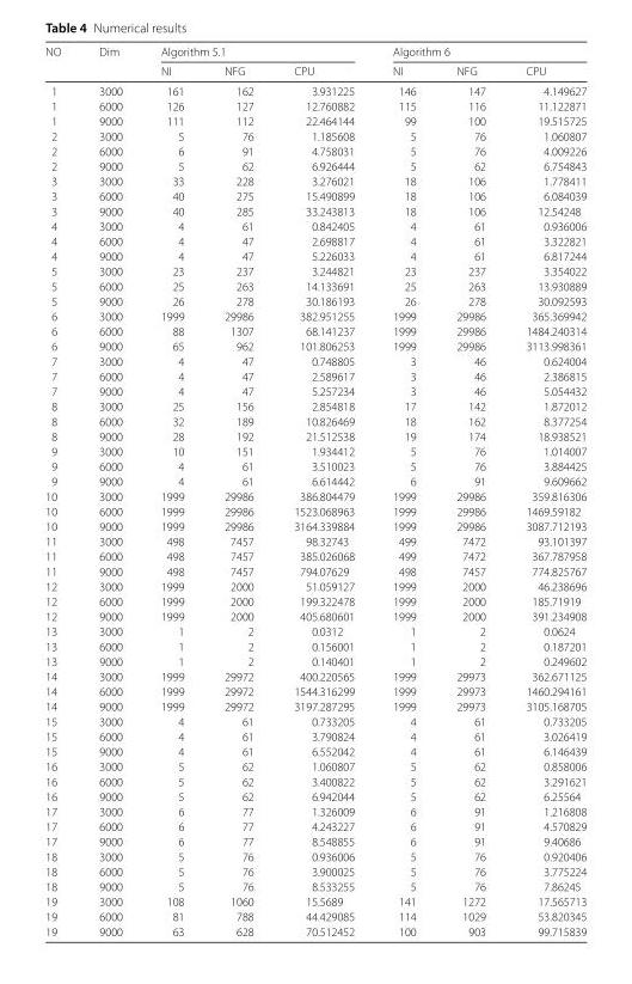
<table><thead><tr><td rowspan="2">NO</td><td rowspan="2">Dim</td><td colspan="3">Algorithm 5.1</td><td colspan="3">Algorithm 6</td></tr><tr><td>NI</td><td>NFG</td><td>CPU</td><td>NI</td><td>NFG</td><td>CPU</td></tr></thead><tbody><tr><td>1</td><td>3000</td><td>161</td><td>162</td><td>3.931225</td><td>146</td><td>147</td><td>4.149627</td></tr><tr><td>1</td><td>6000</td><td>126</td><td>127</td><td>12.760882</td><td>115</td><td>116</td><td>11.122871</td></tr><tr><td>1</td><td>9000</td><td>111</td><td>112</td><td>22.464144</td><td>99</td><td>100</td><td>19.515725</td></tr><tr><td>2</td><td>3000</td><td>5</td><td>76</td><td>1.185608</td><td>5</td><td>76</td><td>1.060807</td></tr><tr><td>2</td><td>6000</td><td>6</td><td>91</td><td>4.758031</td><td>5</td><td>76</td><td>4.009226</td></tr><tr><td>2</td><td>9000</td><td>5</td><td>62</td><td>6.926444</td><td>5</td><td>62</td><td>6.754843</td></tr><tr><td>3</td><td>3000</td><td>33</td><td>228</td><td>3.276021</td><td>18</td><td>106</td><td>1.778411</td></tr><tr><td>3</td><td>6000</td><td>40</td><td>275</td><td>15.490899</td><td>18</td><td>106</td><td>6.084039</td></tr><tr><td>3</td><td>9000</td><td>40</td><td>285</td><td>33.243813</td><td>18</td><td>106</td><td>12.54248</td></tr><tr><td>4</td><td>3000</td><td>4</td><td>61</td><td>0.842405</td><td>4</td><td>61</td><td>0.936006</td></tr><tr><td>4</td><td>6000</td><td>4</td><td>47</td><td>2.698817</td><td>4</td><td>61</td><td>3.322821</td></tr><tr><td>4</td><td>9000</td><td>4</td><td>47</td><td>5.226033</td><td>4</td><td>61</td><td>6.817244</td></tr><tr><td>5</td><td>3000</td><td>23</td><td>237</td><td>3.244821</td><td>23</td><td>237</td><td>3.354022</td></tr><tr><td>5</td><td>6000</td><td>25</td><td>263</td><td>14.133691</td><td>25</td><td>263</td><td>13.930889</td></tr><tr><td>5</td><td>9000</td><td>26</td><td>278</td><td>30.186193</td><td>26</td><td>278</td><td>30.092593</td></tr><tr><td>6</td><td>3000</td><td>1999</td><td>29986</td><td>382.951255</td><td>1999</td><td>29986</td><td>365.369942</td></tr><tr><td>6</td><td>6000</td><td>88</td><td>1307</td><td>68.141237</td><td>1999</td><td>29986</td><td>1484.240314</td></tr><tr><td>6</td><td>9000</td><td>65</td><td>962</td><td>101.806253</td><td>1999</td><td>29986</td><td>3113.998361</td></tr><tr><td>7</td><td>3000</td><td>4</td><td>47</td><td>0.748805</td><td>3</td><td>46</td><td>0.624004</td></tr><tr><td>7</td><td>6000</td><td>4</td><td>47</td><td>2.589617</td><td>3</td><td>46</td><td>2.386815</td></tr><tr><td>7</td><td>9000</td><td>4</td><td>47</td><td>5.257234</td><td>3</td><td>46</td><td>5.054432</td></tr><tr><td>8</td><td>3000</td><td>25</td><td>156</td><td>2.854818</td><td>17</td><td>142</td><td>1.872012</td></tr><tr><td>8</td><td>6000</td><td>32</td><td>189</td><td>10.826469</td><td>18</td><td>162</td><td>8.377254</td></tr><tr><td>8</td><td>9000</td><td>28</td><td>192</td><td>21.512538</td><td>19</td><td>174</td><td>18.938521</td></tr><tr><td>9</td><td>3000</td><td>10</td><td>151</td><td>1.934412</td><td>5</td><td>76</td><td>1.014007</td></tr><tr><td>9</td><td>6000</td><td>4</td><td>61</td><td>3.510023</td><td>5</td><td>76</td><td>3.884425</td></tr><tr><td>9</td><td>9000</td><td>4</td><td>61</td><td>6.614442</td><td>6</td><td>91</td><td>9.609662</td></tr><tr><td>10</td><td>3000</td><td>1999</td><td>29986</td><td>386.804479</td><td>1999</td><td>29986</td><td>359.816306</td></tr><tr><td>10</td><td>6000</td><td>1999</td><td>29986</td><td>1523.068963</td><td>1999</td><td>29986</td><td>1469.59182</td></tr><tr><td>10</td><td>9000</td><td>1999</td><td>29986</td><td>3164.339884</td><td>1999</td><td>29986</td><td>3087.712193</td></tr><tr><td>11</td><td>3000</td><td>498</td><td>7457</td><td>98.32743</td><td>499</td><td>7472</td><td>93.101397</td></tr><tr><td>11</td><td>6000</td><td>498</td><td>7457</td><td>385.026068</td><td>499</td><td>7472</td><td>367.787958</td></tr><tr><td>11</td><td>9000</td><td>498</td><td>7457</td><td>794.07629</td><td>498</td><td>7457</td><td>774.825767</td></tr><tr><td>12</td><td>3000</td><td>1999</td><td>2000</td><td>51.059127</td><td>1999</td><td>2000</td><td>46.238696</td></tr><tr><td>12</td><td>6000</td><td>1999</td><td>2000</td><td>199.322478</td><td>1999</td><td>2000</td><td>185.71919</td></tr><tr><td>12</td><td>9000</td><td>1999</td><td>2000</td><td>405.680601</td><td>1999</td><td>2000</td><td>391.234908</td></tr><tr><td>13</td><td>3000</td><td>1</td><td>2</td><td>0.0312</td><td>1</td><td>2</td><td>0.0624</td></tr><tr><td>13</td><td>6000</td><td>1</td><td>2</td><td>0.156001</td><td>1</td><td>2</td><td>0.187201</td></tr><tr><td>13</td><td>9000</td><td>1</td><td>2</td><td>0.140401</td><td>1</td><td>2</td><td>0.249602</td></tr><tr><td>14</td><td>3000</td><td>1999</td><td>29972</td><td>400.220565</td><td>1999</td><td>29973</td><td>362.671125</td></tr><tr><td>14</td><td>6000</td><td>1999</td><td>29972</td><td>1544.316299</td><td>1999</td><td>29973</td><td>1460.294161</td></tr><tr><td>14</td><td>9000</td><td>1999</td><td>29972</td><td>3197.287295</td><td>1999</td><td>29973</td><td>3105.168705</td></tr><tr><td>15</td><td>3000</td><td>4</td><td>61</td><td>0.733205</td><td>4</td><td>61</td><td>0.733205</td></tr><tr><td>15</td><td>6000</td><td>4</td><td>61</td><td>3.790824</td><td>4</td><td>61</td><td>3.026419</td></tr><tr><td>15</td><td>9000</td><td>4</td><td>61</td><td>6.552042</td><td>4</td><td>61</td><td>6.146439</td></tr><tr><td>16</td><td>3000</td><td>5</td><td>62</td><td>1.060807</td><td>5</td><td>62</td><td>0.858006</td></tr><tr><td>16</td><td>6000</td><td>5</td><td>62</td><td>3.400822</td><td>5</td><td>62</td><td>3.291621</td></tr><tr><td>16</td><td>9000</td><td>5</td><td>62</td><td>6.942044</td><td>5</td><td>62</td><td>6.25564</td></tr><tr><td>17</td><td>3000</td><td>6</td><td>77</td><td>1.326009</td><td>6</td><td>91</td><td>1.216808</td></tr><tr><td>17</td><td>6000</td><td>6</td><td>77</td><td>4.243227</td><td>6</td><td>91</td><td>4.570829</td></tr><tr><td>17</td><td>9000</td><td>6</td><td>77</td><td>8.548855</td><td>6</td><td>91</td><td>9.40686</td></tr><tr><td>18</td><td>3000</td><td>5</td><td>76</td><td>0.936006</td><td>5</td><td>76</td><td>0.920406</td></tr><tr><td>18</td><td>6000</td><td>5</td><td>76</td><td>3.900025</td><td>5</td><td>76</td><td>3.775224</td></tr><tr><td>18</td><td>9000</td><td>5</td><td>76</td><td>8.533255</td><td>5</td><td>76</td><td>7.86245</td></tr><tr><td>19</td><td>3000</td><td>108</td><td>1060</td><td>15.5689</td><td>141</td><td>1272</td><td>17.565713</td></tr><tr><td>19</td><td>6000</td><td>81</td><td>788</td><td>44.429085</td><td>114</td><td>1029</td><td>53.820345</td></tr><tr><td>19</td><td>9000</td><td>63</td><td>628</td><td>70.512452</td><td>100</td><td>903</td><td>99.715839</td></tr></tbody></table>